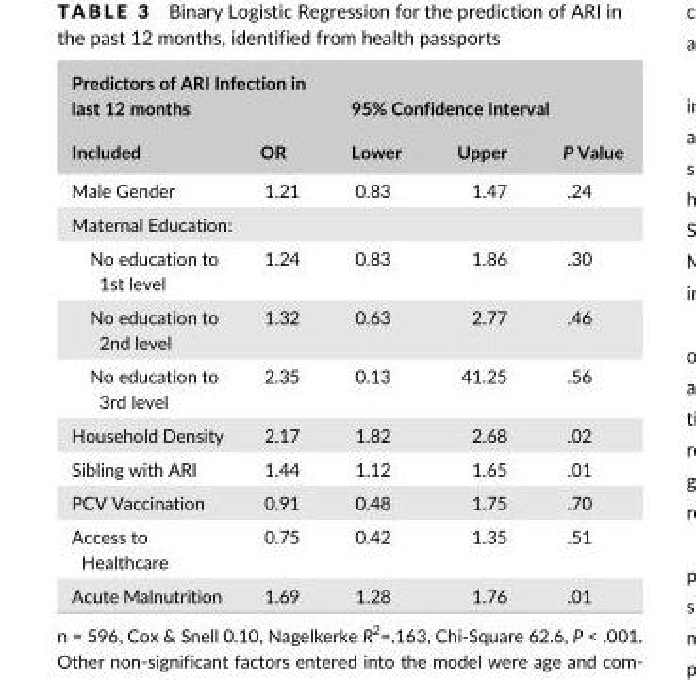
<table><thead><tr><td colspan="2">Predictors of ARI Infection in last 12 months</td><td colspan="3">95% Confidence Interval</td></tr><tr><td>Included</td><td>OR</td><td>Lower</td><td>Upper</td><td>P Value</td></tr></thead><tbody><tr><td>Male Gender</td><td>1.21</td><td>0.83</td><td>1.47</td><td>.24</td></tr><tr><td colspan="5">Maternal Education:</td></tr><tr><td>No education to 1st level</td><td>1.24</td><td>0.83</td><td>1.86</td><td>.30</td></tr><tr><td>No education to 2nd level</td><td>1.32</td><td>0.63</td><td>2.77</td><td>.46</td></tr><tr><td>No education to 3rd level</td><td>2.35</td><td>0.13</td><td>41.25</td><td>.56</td></tr><tr><td>Household Density</td><td>2.17</td><td>1.82</td><td>2.68</td><td>.02</td></tr><tr><td>Sibling with ARI</td><td>1.44</td><td>1.12</td><td>1.65</td><td>.01</td></tr><tr><td>PCV Vaccination</td><td>0.91</td><td>0.48</td><td>1.75</td><td>.70</td></tr><tr><td>Access to Healthcare</td><td>0.75</td><td>0.42</td><td>1.35</td><td>.51</td></tr><tr><td>Acute Malnutrition</td><td>1.69</td><td>1.28</td><td>1.76</td><td>.01</td></tr></tbody></table>